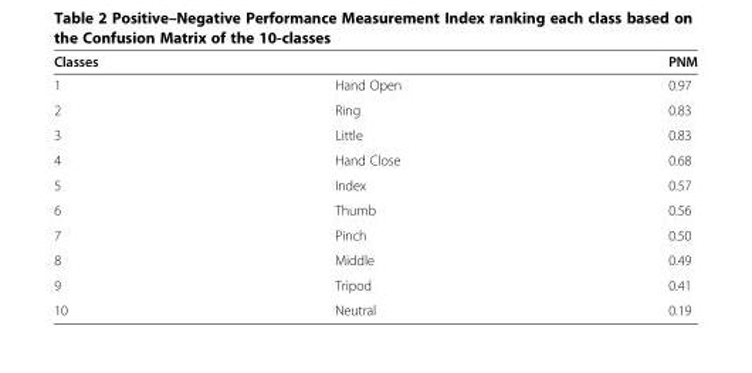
<table><thead><tr><td colspan="2">Classes</td><td rowspan="2">PNM 0.97</td></tr><tr><td>1</td><td>Hand Open</td></tr></thead><tbody><tr><td>2</td><td>Ring</td><td>0.83</td></tr><tr><td>3</td><td>Little</td><td>0.83</td></tr><tr><td>4</td><td>Hand Close</td><td>0.68</td></tr><tr><td>5</td><td>Index</td><td>0.57</td></tr><tr><td>6</td><td>Thumb</td><td>0.56</td></tr><tr><td>7</td><td>Pinch</td><td>0.50</td></tr><tr><td>8</td><td>Middle</td><td>0.49</td></tr><tr><td>9</td><td>Tripod</td><td>0.41</td></tr><tr><td>10</td><td>Neutral</td><td>0.19</td></tr></tbody></table>